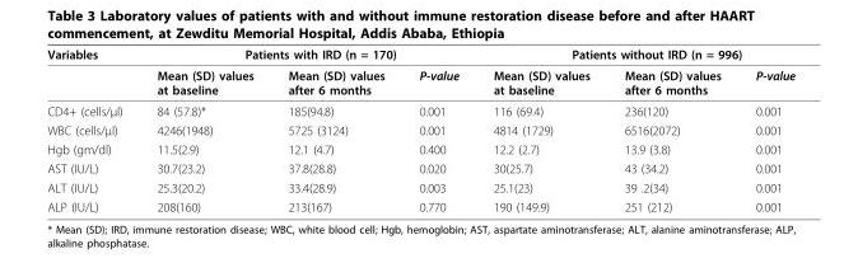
<table><thead><tr><td rowspan="2">Variables</td><td colspan="3">Patients with IRD (n = 170)</td><td colspan="3">Patients without IRD (n = 996)</td></tr><tr><td>Mean (SD) values at baseline</td><td>Mean (SD) values after 6 months</td><td>P-value</td><td>Mean (SD) values at baseline</td><td>Mean (SD) values after 6 months</td><td>P-value</td></tr></thead><tbody><tr><td>CD4+ (cells/μl)</td><td>84 (57.8)*</td><td>185(94.8)</td><td>0.001</td><td>116 (69.4)</td><td>236(120)</td><td>0.001</td></tr><tr><td>WBC (cells/μl)</td><td>4246(1948)</td><td>5725 (3124)</td><td>0.001</td><td>4814 (1729)</td><td>6516(2072)</td><td>0.001</td></tr><tr><td>Hgb (gm/dl)</td><td>11.5(2.9)</td><td>12.1 (4.7)</td><td>0.400</td><td>12.2 (2.7)</td><td>13.9 (3.8)</td><td>0.001</td></tr><tr><td>AST (IU/L)</td><td>30.7(23.2)</td><td>37.8(28.8)</td><td>0.020</td><td>30(25.7)</td><td>43 (34.2)</td><td>0.001</td></tr><tr><td>ALT (IU/L)</td><td>25.3(20.2)</td><td>33.4(28.9)</td><td>0.003</td><td>25.1(23)</td><td>39 .2(34)</td><td>0.001</td></tr><tr><td>ALP (IU/L)</td><td>208(160)</td><td>213(167)</td><td>0.770</td><td>190 (149.9)</td><td>251 (212)</td><td>0.001</td></tr></tbody></table>